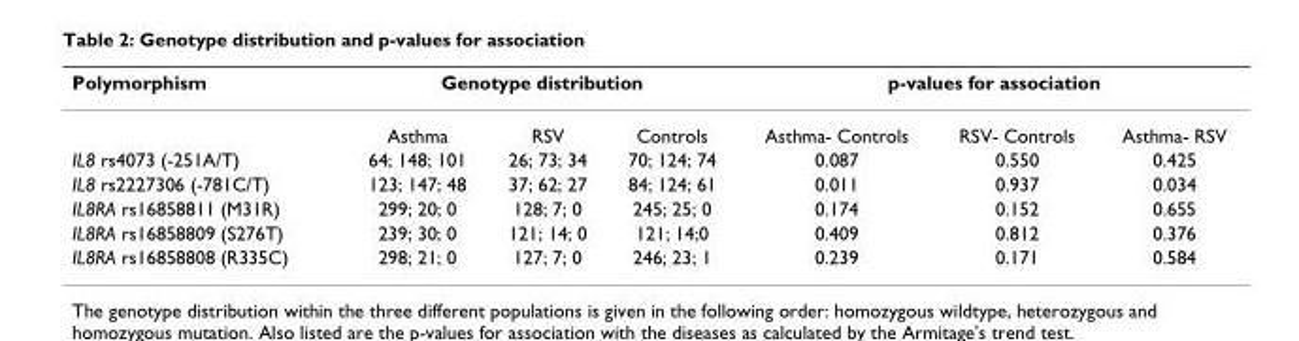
<table><thead><tr><td rowspan="2">Polymorphism</td><td colspan="3">Genotype distribution</td><td colspan="3">p-values for association</td></tr><tr><td>Asthma</td><td>RSV</td><td>Controls</td><td>Asthma- Controls</td><td>RSV- Controls</td><td>Asthma- RSV</td></tr></thead><tbody><tr><td>IL8 rs4073 (-251A/T)</td><td>64; 148; 101</td><td>26; 73; 34</td><td>70; 124; 74</td><td>0.087</td><td>0.550</td><td>0.425</td></tr><tr><td>IL8 rs2227306 (-781C/T)</td><td>123; 147; 48</td><td>37; 62; 27</td><td>84; 124; 61</td><td>0.011</td><td>0.937</td><td>0.034</td></tr><tr><td>IL8RA rs16858811 (M31R)</td><td>299; 20; 0</td><td>128; 7; 0</td><td>245; 25; 0</td><td>0.174</td><td>0.152</td><td>0.655</td></tr><tr><td>IL8RA rs16858809 (S276T)</td><td>239; 30; 0</td><td>121; 14; 0</td><td>121; 14;0</td><td>0.409</td><td>0.812</td><td>0.376</td></tr><tr><td>IL8RA rs16858808 (R335C)</td><td>298; 21; 0</td><td>127; 7; 0</td><td>246; 23; 1</td><td>0.239</td><td>0.171</td><td>0.584</td></tr></tbody></table>